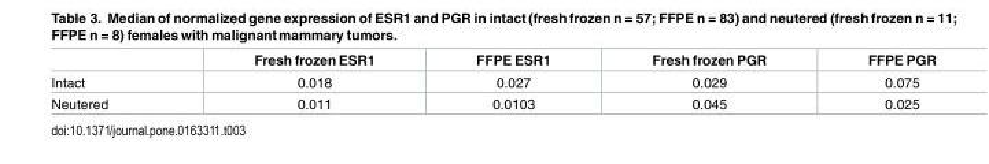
<table><thead><tr><td></td><td>Fresh frozen ESR1</td><td>FFPE ESR1</td><td>Fresh frozen PGR</td><td>FFPE PGR</td></tr></thead><tbody><tr><td>Intact</td><td>0.018</td><td>0.027</td><td>0.029</td><td>0.075</td></tr><tr><td>Neutered</td><td>0.011</td><td>0.0103</td><td>0.045</td><td>0.025</td></tr></tbody></table>